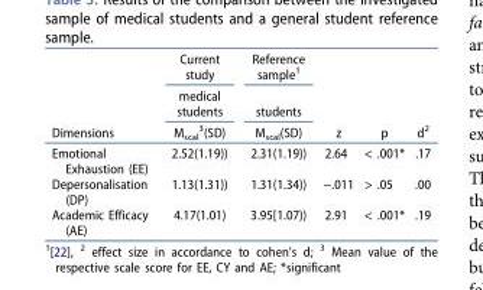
<table><thead><tr><td rowspan="3">Dimensions</td><td rowspan="3">Current study medical students M<sub>scal</sub> <sup>3</sup>(SD)</td><td rowspan="3">Reference sample<sup>1</sup> students M<sub>scal</sub>(SD)</td><td rowspan="3">z</td><td rowspan="3">p</td><td rowspan="3">d<sup>2</sup></td></tr><tr></tr><tr></tr></thead><tbody><tr><td>Emotional Exhaustion (EE)</td><td>2.52(1.19))</td><td>2.31(1.19))</td><td>2.64</td><td>&lt; .001*</td><td>.17</td></tr><tr><td>Depersonalisation (DP)</td><td>1.13(1.31))</td><td>1.31(1.34))</td><td>−.011</td><td>&gt; .05</td><td>.00</td></tr><tr><td>Academic Efficacy (AE)</td><td>4.17(1.01)</td><td>3.95[1.07))</td><td>2.91</td><td>&lt; .001*</td><td>.19</td></tr></tbody></table>